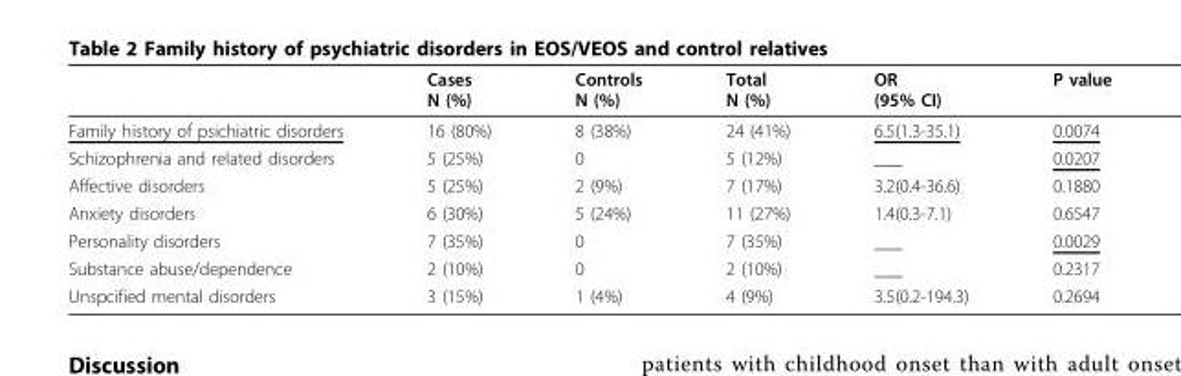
<table><thead><tr><td></td><td>Cases N (%)</td><td>Controls N (%)</td><td>Total N (%)</td><td>OR (95% CI)</td><td>P value</td></tr></thead><tbody><tr><td>Family history of psichiatric disorders</td><td>16 (80%)</td><td>8 (38%)</td><td>24 (41%)</td><td>6.5(1.3-35.1)</td><td>0.0074</td></tr><tr><td>Schizophrenia and related disorders</td><td>5 (25%)</td><td>0</td><td>5 (12%)</td><td>___</td><td>0.0207</td></tr><tr><td>Affective disorders</td><td>5 (25%)</td><td>2 (9%)</td><td>7 (17%)</td><td>3.2(0.4-36.6)</td><td>0.1880</td></tr><tr><td>Anxiety disorders</td><td>6 (30%)</td><td>5 (24%)</td><td>11 (27%)</td><td>1.4(0.3-7.1)</td><td>0.6547</td></tr><tr><td>Personality disorders</td><td>7 (35%)</td><td>0</td><td>7 (35%)</td><td>___</td><td>0.0029</td></tr><tr><td>Substance abuse/dependence</td><td>2 (10%)</td><td>0</td><td>2 (10%)</td><td>___</td><td>0.2317</td></tr><tr><td>Unspcified mental disorders</td><td>3 (15%)</td><td>1 (4%)</td><td>4 (9%)</td><td>3.5(0.2-194.3)</td><td>0.2694</td></tr></tbody></table>